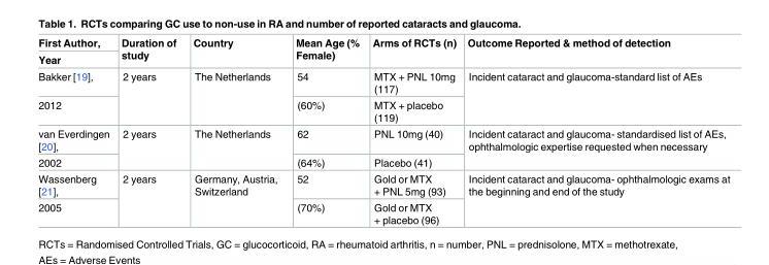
<table><thead><tr><td rowspan="2">First Author, Year</td><td rowspan="2">Duration of study</td><td rowspan="2">Country</td><td rowspan="2">Mean Age (% Female)</td><td rowspan="2">Arms of RCTs (n)</td><td rowspan="2">Outcome Reported &amp; method of detection</td></tr><tr></tr></thead><tbody><tr><td>Bakker [19],</td><td rowspan="2">2 years</td><td rowspan="2">The Netherlands</td><td>54</td><td>MTX + PNL 10mg (117)</td><td rowspan="2">Incident cataract and glaucoma-standard list of AEs</td></tr><tr><td>2012</td><td>(60%)</td><td>MTX + placebo (119)</td></tr><tr><td>van Everdingen [20],</td><td rowspan="2">2 years</td><td rowspan="2">The Netherlands</td><td>62</td><td>PNL 10mg (40)</td><td rowspan="2">Incident cataract and glaucoma- standardised list of AEs, ophthalmologic expertise requested when necessary</td></tr><tr><td>2002</td><td>(64%)</td><td>Placebo (41)</td></tr><tr><td>Wassenberg [21],</td><td rowspan="2">2 years</td><td rowspan="2">Germany, Austria, Switzerland</td><td>52</td><td>Gold or MTX + PNL 5mg (93)</td><td rowspan="2">Incident cataract and glaucoma- ophthalmologic exams at the beginning and end of the study</td></tr><tr><td>2005</td><td>(70%)</td><td>Gold or MTX + placebo (96)</td></tr></tbody></table>